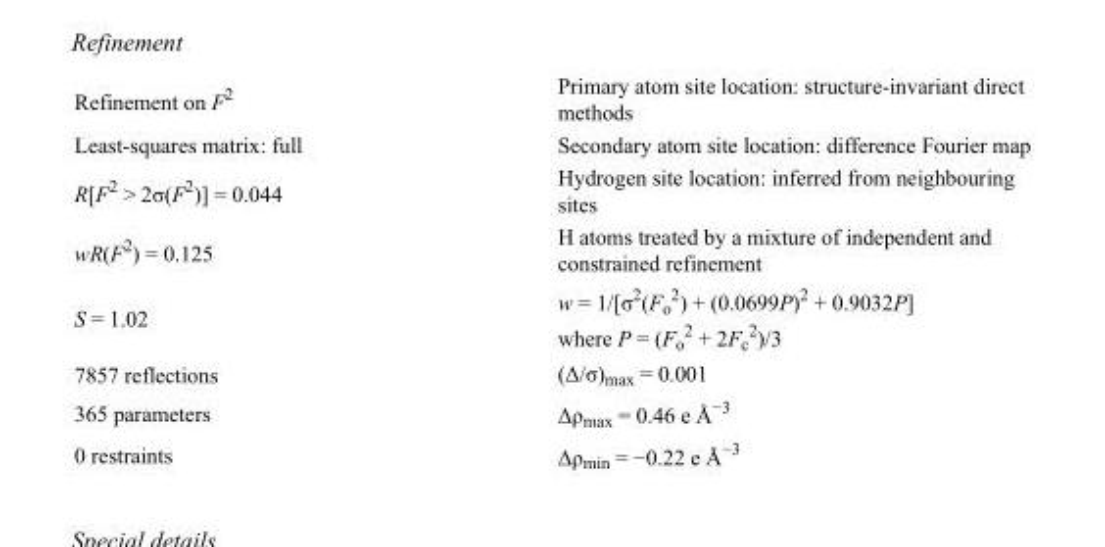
<table><tbody><tr><td>Refinement on F<sup>2</sup></td><td>Primary atom site location: structure-invariant direct methods</td></tr><tr><td>Least-squares matrix: full</td><td>Secondary atom site location: difference Fourier map</td></tr><tr><td>R[F<sup>2</sup> &gt; 2σ(F<sup>2</sup>)] = 0.044</td><td>Hydrogen site location: inferred from neighbouring sites</td></tr><tr><td>wR(F<sup>2</sup>) = 0.125</td><td>H atoms treated by a mixture of independent and constrained refinement</td></tr><tr><td>S = 1.02</td><td>w = 1/[σ<sup>2</sup>(F<sub>o</sub> <sup>2</sup>) + (0.0699P)<sup>2</sup> + 0.9032P] where P = (F<sub>o</sub> <sup>2</sup> + 2F<sub>c</sub> <sup>2</sup>)/3</td></tr><tr><td>7857 reflections</td><td>(Δ/σ)<sub>max</sub> = 0.001</td></tr><tr><td>365 parameters</td><td>Δρ<sub>max</sub> = 0.46 e Å<sup>−3</sup></td></tr><tr><td>0 restraints</td><td>Δρ<sub>min</sub> = −0.22 e Å<sup>−3</sup></td></tr></tbody></table>